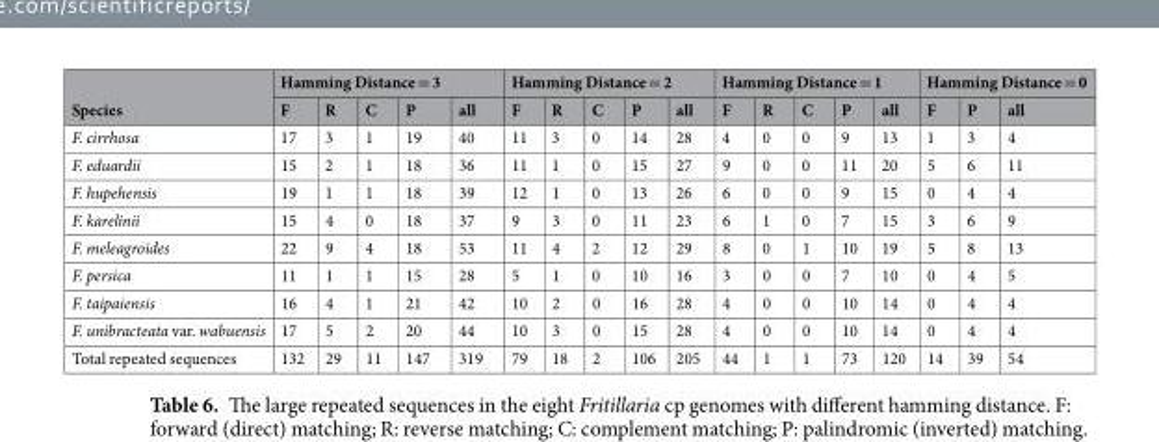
<table><thead><tr><td rowspan="2">Species</td><td colspan="5">Hamming Distance = 3</td><td colspan="5">Hamming Distance = 2</td><td colspan="5">Hamming Distance = 1</td><td colspan="3">Hamming Distance = 0</td></tr><tr><td>F</td><td>R</td><td>C</td><td>P</td><td>all</td><td>F</td><td>R</td><td>C</td><td>P</td><td>all</td><td>F</td><td>R</td><td>C</td><td>P</td><td>all</td><td>F</td><td>P</td><td>all</td></tr></thead><tbody><tr><td>F. cirrhosa</td><td>17</td><td>3</td><td>1</td><td>19</td><td>40</td><td>11</td><td>3</td><td>0</td><td>14</td><td>28</td><td>4</td><td>0</td><td>0</td><td>9</td><td>13</td><td>1</td><td>3</td><td>4</td></tr><tr><td>F. eduardii</td><td>15</td><td>2</td><td>1</td><td>18</td><td>36</td><td>11</td><td>1</td><td>0</td><td>15</td><td>27</td><td>9</td><td>0</td><td>0</td><td>11</td><td>20</td><td>5</td><td>6</td><td>11</td></tr><tr><td>F. hupehensis</td><td>19</td><td>1</td><td>1</td><td>18</td><td>39</td><td>12</td><td>1</td><td>0</td><td>13</td><td>26</td><td>6</td><td>0</td><td>0</td><td>9</td><td>15</td><td>0</td><td>4</td><td>4</td></tr><tr><td>F. karelinii</td><td>15</td><td>4</td><td>0</td><td>18</td><td>37</td><td>9</td><td>3</td><td>0</td><td>11</td><td>23</td><td>6</td><td>1</td><td>0</td><td>7</td><td>15</td><td>3</td><td>6</td><td>9</td></tr><tr><td>F. meleagroides</td><td>22</td><td>9</td><td>4</td><td>18</td><td>53</td><td>11</td><td>4</td><td>2</td><td>12</td><td>29</td><td>8</td><td>0</td><td>1</td><td>10</td><td>19</td><td>5</td><td>8</td><td>13</td></tr><tr><td>F. persica</td><td>11</td><td>1</td><td>1</td><td>15</td><td>28</td><td>5</td><td>1</td><td>0</td><td>10</td><td>16</td><td>3</td><td>0</td><td>0</td><td>7</td><td>10</td><td>0</td><td>4</td><td>5</td></tr><tr><td>F. taipaiensis</td><td>16</td><td>4</td><td>1</td><td>21</td><td>42</td><td>10</td><td>2</td><td>0</td><td>16</td><td>28</td><td>4</td><td>0</td><td>0</td><td>10</td><td>14</td><td>0</td><td>4</td><td>4</td></tr><tr><td>F. unibracteata var. wabuensis</td><td>17</td><td>5</td><td>2</td><td>20</td><td>44</td><td>10</td><td>3</td><td>0</td><td>15</td><td>28</td><td>4</td><td>0</td><td>0</td><td>10</td><td>14</td><td>0</td><td>4</td><td>4</td></tr><tr><td>Total repeated sequences</td><td>132</td><td>29</td><td>11</td><td>147</td><td>319</td><td>79</td><td>18</td><td>2</td><td>106</td><td>205</td><td>44</td><td>1</td><td>1</td><td>73</td><td>120</td><td>14</td><td>39</td><td>54</td></tr></tbody></table>